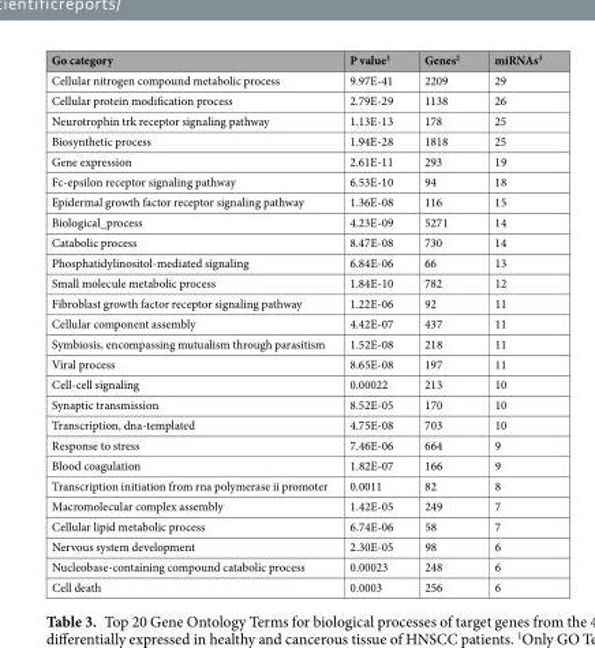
<table><thead><tr><td>Go category</td><td>P value<sup>1</sup></td><td>Genes<sup>2</sup></td><td>miRNAs<sup>3</sup></td></tr></thead><tbody><tr><td>Cellular nitrogen compound metabolic process</td><td>9.97E-41</td><td>2209</td><td>29</td></tr><tr><td>Cellular protein modification process</td><td>2.79E-29</td><td>1138</td><td>26</td></tr><tr><td>Neurotrophin trk receptor signaling pathway</td><td>1.13E-13</td><td>178</td><td>25</td></tr><tr><td>Biosynthetic process</td><td>1.94E-28</td><td>1818</td><td>25</td></tr><tr><td>Gene expression</td><td>2.61E-11</td><td>293</td><td>19</td></tr><tr><td>Fc-epsilon receptor signaling pathway</td><td>6.53E-10</td><td>94</td><td>18</td></tr><tr><td>Epidermal growth factor receptor signaling pathway</td><td>1.36E-08</td><td>116</td><td>15</td></tr><tr><td>Biological_process</td><td>4.23E-09</td><td>5271</td><td>14</td></tr><tr><td>Catabolic process</td><td>8.47E-08</td><td>730</td><td>14</td></tr><tr><td>Phosphatidylinositol-mediated signaling</td><td>6.84E-06</td><td>66</td><td>13</td></tr><tr><td>Small molecule metabolic process</td><td>1.84E-10</td><td>782</td><td>12</td></tr><tr><td>Fibroblast growth factor receptor signaling pathway</td><td>1.22E-06</td><td>92</td><td>11</td></tr><tr><td>Cellular component assembly</td><td>4.42E-07</td><td>437</td><td>11</td></tr><tr><td>Symbiosis, encompassing mutualism through parasitism</td><td>1.52E-08</td><td>218</td><td>11</td></tr><tr><td>Viral process</td><td>8.65E-08</td><td>197</td><td>11</td></tr><tr><td>Cell-cell signaling</td><td>0.00022</td><td>213</td><td>10</td></tr><tr><td>Synaptic transmission</td><td>8.52E-05</td><td>170</td><td>10</td></tr><tr><td>Transcription, dna-templated</td><td>4.75E-08</td><td>703</td><td>10</td></tr><tr><td>Response to stress</td><td>7.46E-06</td><td>664</td><td>9</td></tr><tr><td>Blood coagulation</td><td>1.82E-07</td><td>166</td><td>9</td></tr><tr><td>Transcription initiation from rna polymerase ii promoter</td><td>0.0011</td><td>82</td><td>8</td></tr><tr><td>Macromolecular complex assembly</td><td>1.42E-05</td><td>249</td><td>7</td></tr><tr><td>Cellular lipid metabolic process</td><td>6.74E-06</td><td>58</td><td>7</td></tr><tr><td>Nervous system development</td><td>2.30E-05</td><td>98</td><td>6</td></tr><tr><td>Nucleobase-containing compound catabolic process</td><td>0.00023</td><td>248</td><td>6</td></tr><tr><td>Cell death</td><td>0.0003</td><td>256</td><td>6</td></tr></tbody></table>